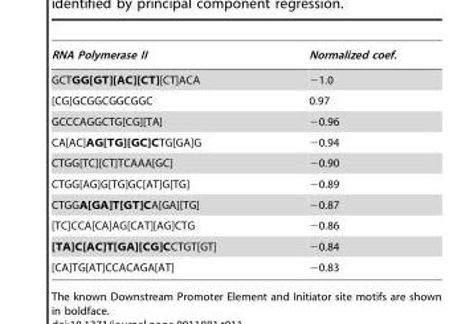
<table><thead><tr><td>RNA Polymerase II</td><td>Normalized coef.</td></tr></thead><tbody><tr><td>GCTGG[GT][AC][CT][CT]ACA</td><td>−1.0</td></tr><tr><td>[CG]GCGGCGGCGGC</td><td>0.97</td></tr><tr><td>GCCCAGGCTG[CG][TA]</td><td>−0.96</td></tr><tr><td>CA[AC]AG[TG][GC]CTG[GA]G</td><td>−0.94</td></tr><tr><td>CTGG[TC][CT]TCAAA[GC]</td><td>−0.90</td></tr><tr><td>CTGG[AG]G[TG]GC[AT]G[TG]</td><td>−0.89</td></tr><tr><td>CTGGA[GA]T[GT]CA[GA][TG]</td><td>−0.87</td></tr><tr><td>[TC]CCA[CA]AG[CAT][AG]CTG</td><td>−0.86</td></tr><tr><td>[TA]C[AC]T[GA][CG]CCTGT[GT]</td><td>−0.84</td></tr><tr><td>[CA]TG[AT]CCACAGA[AT]</td><td>−0.83</td></tr></tbody></table>